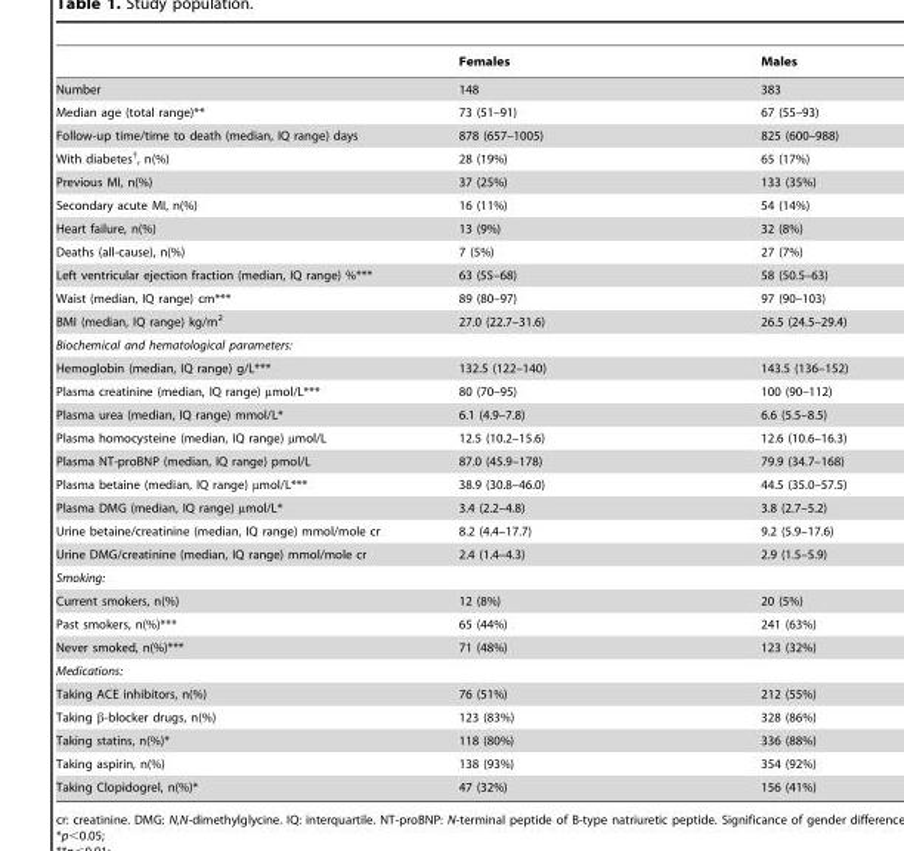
<table><thead><tr><td></td><td>Females</td><td>Males</td></tr></thead><tbody><tr><td>Number</td><td>148</td><td>383</td></tr><tr><td>Median age (total range)**</td><td>73 (51–91)</td><td>67 (55–93)</td></tr><tr><td>Follow-up time/time to death (median, IQ range) days</td><td>878 (657–1005)</td><td>825 (600–988)</td></tr><tr><td>With diabetes†, n(%)</td><td>28 (19%)</td><td>65 (17%)</td></tr><tr><td>Previous MI, n(%)</td><td>37 (25%)</td><td>133 (35%)</td></tr><tr><td>Secondary acute MI, n(%)</td><td>16 (11%)</td><td>54 (14%)</td></tr><tr><td>Heart failure, n(%)</td><td>13 (9%)</td><td>32 (8%)</td></tr><tr><td>Deaths (all-cause), n(%)</td><td>7 (5%)</td><td>27 (7%)</td></tr><tr><td>Left ventricular ejection fraction (median, IQ range) %***</td><td>63 (55–68)</td><td>58 (50.5–63)</td></tr><tr><td>Waist (median, IQ range) cm***</td><td>89 (80–97)</td><td>97 (90–103)</td></tr><tr><td>BMI (median, IQ range) kg/m<sup>2</sup></td><td>27.0 (22.7–31.6)</td><td>26.5 (24.5–29.4)</td></tr><tr><td colspan="3">Biochemical and hematological parameters:</td></tr><tr><td>Hemoglobin (median, IQ range) g/L***</td><td>132.5 (122–140)</td><td>143.5 (136–152)</td></tr><tr><td>Plasma creatinine (median, IQ range) µmol/L***</td><td>80 (70–95)</td><td>100 (90–112)</td></tr><tr><td>Plasma urea (median, IQ range) mmol/L*</td><td>6.1 (4.9–7.8)</td><td>6.6 (5.5–8.5)</td></tr><tr><td>Plasma homocysteine (median, IQ range) µmol/L</td><td>12.5 (10.2–15.6)</td><td>12.6 (10.6–16.3)</td></tr><tr><td>Plasma NT-proBNP (median, IQ range) pmol/L</td><td>87.0 (45.9–178)</td><td>79.9 (34.7–168)</td></tr><tr><td>Plasma betaine (median, IQ range) µmol/L***</td><td>38.9 (30.8–46.0)</td><td>44.5 (35.0–57.5)</td></tr><tr><td>Plasma DMG (median, IQ range) µmol/L*</td><td>3.4 (2.2–4.8)</td><td>3.8 (2.7–5.2)</td></tr><tr><td>Urine betaine/creatinine (median, IQ range) mmol/mole cr</td><td>8.2 (4.4–17.7)</td><td>9.2 (5.9–17.6)</td></tr><tr><td>Urine DMG/creatinine (median, IQ range) mmol/mole cr</td><td>2.4 (1.4–4.3)</td><td>2.9 (1.5–5.9)</td></tr><tr><td colspan="3">Smoking:</td></tr><tr><td>Current smokers, n(%)</td><td>12 (8%)</td><td>20 (5%)</td></tr><tr><td>Past smokers, n(%)***</td><td>65 (44%)</td><td>241 (63%)</td></tr><tr><td>Never smoked, n(%)***</td><td>71 (48%)</td><td>123 (32%)</td></tr><tr><td colspan="3">Medications:</td></tr><tr><td>Taking ACE inhibitors, n(%)</td><td>76 (51%)</td><td>212 (55%)</td></tr><tr><td>Taking β-blocker drugs, n(%)</td><td>123 (83%)</td><td>328 (86%)</td></tr><tr><td>Taking statins, n(%)*</td><td>118 (80%)</td><td>336 (88%)</td></tr><tr><td>Taking aspirin, n(%)</td><td>138 (93%)</td><td>354 (92%)</td></tr><tr><td>Taking Clopidogrel, n(%)*</td><td>47 (32%)</td><td>156 (41%)</td></tr></tbody></table>